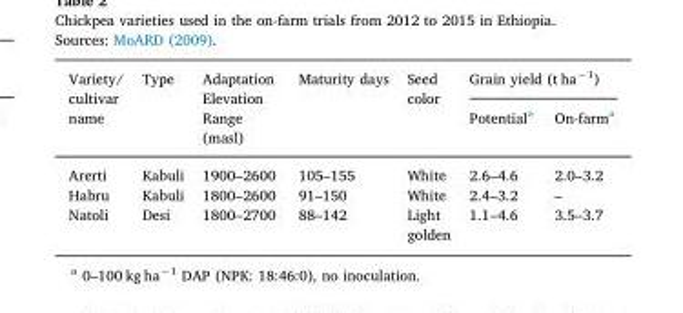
<table><thead><tr><td rowspan="2">Variety/ cultivar name</td><td rowspan="2">Type</td><td rowspan="2">Adaptation Elevation Range (masl)</td><td rowspan="2">Maturity days</td><td rowspan="2">Seed color</td><td colspan="2">Grain yield (t ha<sup>−1</sup>)</td></tr><tr><td>Potential<sup>a</sup></td><td>On-farm<sup>a</sup></td></tr></thead><tbody><tr><td>Arerti</td><td>Kabuli</td><td>1900–2600</td><td>105–155</td><td>White</td><td>2.6–4.6</td><td>2.0–3.2</td></tr><tr><td>Habru</td><td>Kabuli</td><td>1800–2600</td><td>91–150</td><td>White</td><td>2.4–3.2</td><td>–</td></tr><tr><td>Natoli</td><td>Desi</td><td>1800–2700</td><td>88–142</td><td>Light golden</td><td>1.1–4.6</td><td>3.5–3.7</td></tr></tbody></table>